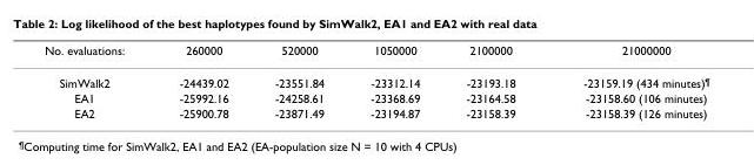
<table><thead><tr><td>No. evaluations:</td><td>260000</td><td>520000</td><td>1050000</td><td>2100000</td><td>21000000</td></tr></thead><tbody><tr><td>SimWalk2</td><td>-24439.02</td><td>-23551.84</td><td>-23312.14</td><td>-23193.18</td><td>-23159.19 (434 minutes)<sup>¶</sup></td></tr><tr><td>EA1</td><td>-25992.16</td><td>-24258.61</td><td>-23368.69</td><td>-23164.58</td><td>-23158.60 (106 minutes)</td></tr><tr><td>EA2</td><td>-25900.78</td><td>-23871.49</td><td>-23194.87</td><td>-23158.39</td><td>-23158.39 (126 minutes)</td></tr></tbody></table>